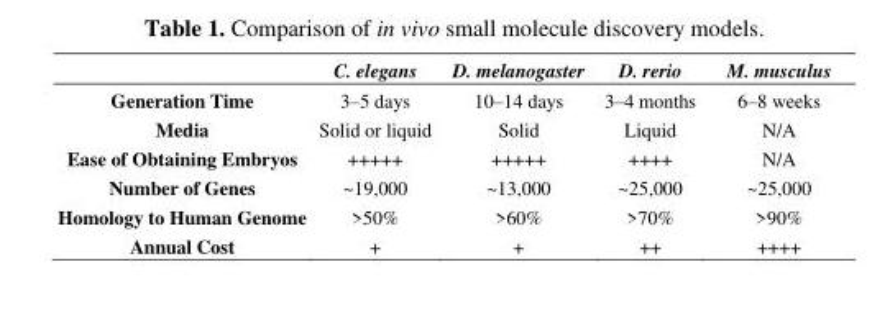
<table><thead><tr><td></td><td>C. elegans</td><td>D. melanogaster</td><td>D. rerio</td><td>M. musculus</td></tr></thead><tbody><tr><td>Generation Time</td><td>3–5 days</td><td>10–14 days</td><td>3–4 months</td><td>6–8 weeks</td></tr><tr><td>Media</td><td>Solid or liquid</td><td>Solid</td><td>Liquid</td><td>N/A</td></tr><tr><td>Ease of Obtaining Embryos</td><td>+++++</td><td>+++++</td><td>++++</td><td>N/A</td></tr><tr><td>Number of Genes</td><td>~19,000</td><td>~13,000</td><td>~25,000</td><td>~25,000</td></tr><tr><td>Homology to Human Genome</td><td>&gt;50%</td><td>&gt;60%</td><td>&gt;70%</td><td>&gt;90%</td></tr><tr><td>Annual Cost</td><td>+</td><td>+</td><td>++</td><td>++++</td></tr></tbody></table>